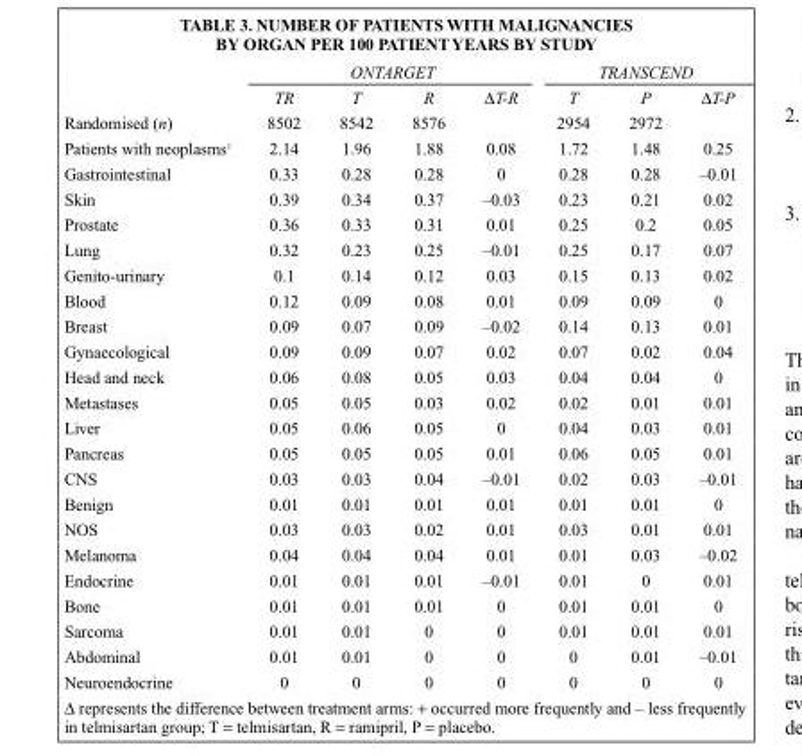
<table><thead><tr><td rowspan="2"></td><td colspan="4">ONTARGET</td><td colspan="3">TRANSCEND</td></tr><tr><td>TR</td><td>T</td><td>R</td><td>∆T-R</td><td>T</td><td>P</td><td>∆T-P</td></tr></thead><tbody><tr><td>Randomised (n)</td><td>8502</td><td>8542</td><td>8576</td><td></td><td>2954</td><td>2972</td><td></td></tr><tr><td>Patients with neoplasms<sup>1</sup></td><td>2.14</td><td>1.96</td><td>1.88</td><td>0.08</td><td>1.72</td><td>1.48</td><td>0.25</td></tr><tr><td>Gastrointestinal</td><td>0.33</td><td>0.28</td><td>0.28</td><td>0</td><td>0.28</td><td>0.28</td><td>–0.01</td></tr><tr><td>Skin</td><td>0.39</td><td>0.34</td><td>0.37</td><td>–0.03</td><td>0.23</td><td>0.21</td><td>0.02</td></tr><tr><td>Prostate</td><td>0.36</td><td>0.33</td><td>0.31</td><td>0.01</td><td>0.25</td><td>0.2</td><td>0.05</td></tr><tr><td>Lung</td><td>0.32</td><td>0.23</td><td>0.25</td><td>–0.01</td><td>0.25</td><td>0.17</td><td>0.07</td></tr><tr><td>Genito-urinary</td><td>0.1</td><td>0.14</td><td>0.12</td><td>0.03</td><td>0.15</td><td>0.13</td><td>0.02</td></tr><tr><td>Blood</td><td>0.12</td><td>0.09</td><td>0.08</td><td>0.01</td><td>0.09</td><td>0.09</td><td>0</td></tr><tr><td>Breast</td><td>0.09</td><td>0.07</td><td>0.09</td><td>–0.02</td><td>0.14</td><td>0.13</td><td>0.01</td></tr><tr><td>Gynaecological</td><td>0.09</td><td>0.09</td><td>0.07</td><td>0.02</td><td>0.07</td><td>0.02</td><td>0.04</td></tr><tr><td>Head and neck</td><td>0.06</td><td>0.08</td><td>0.05</td><td>0.03</td><td>0.04</td><td>0.04</td><td>0</td></tr><tr><td>Metastases</td><td>0.05</td><td>0.05</td><td>0.03</td><td>0.02</td><td>0.02</td><td>0.01</td><td>0.01</td></tr><tr><td>Liver</td><td>0.05</td><td>0.06</td><td>0.05</td><td>0</td><td>0.04</td><td>0.03</td><td>0.01</td></tr><tr><td>Pancreas</td><td>0.05</td><td>0.05</td><td>0.05</td><td>0.01</td><td>0.06</td><td>0.05</td><td>0.01</td></tr><tr><td>CNS</td><td>0.03</td><td>0.03</td><td>0.04</td><td>–0.01</td><td>0.02</td><td>0.03</td><td>–0.01</td></tr><tr><td>Benign</td><td>0.01</td><td>0.01</td><td>0.01</td><td>0.01</td><td>0.01</td><td>0.01</td><td>0</td></tr><tr><td>NOS</td><td>0.03</td><td>0.03</td><td>0.02</td><td>0.01</td><td>0.03</td><td>0.01</td><td>0.01</td></tr><tr><td>Melanoma</td><td>0.04</td><td>0.04</td><td>0.04</td><td>0.01</td><td>0.01</td><td>0.03</td><td>–0.02</td></tr><tr><td>Endocrine</td><td>0.01</td><td>0.01</td><td>0.01</td><td>–0.01</td><td>0.01</td><td>0</td><td>0.01</td></tr><tr><td>Bone</td><td>0.01</td><td>0.01</td><td>0.01</td><td>0</td><td>0.01</td><td>0.01</td><td>0</td></tr><tr><td>Sarcoma</td><td>0.01</td><td>0.01</td><td>0</td><td>0</td><td>0.01</td><td>0.01</td><td>0.01</td></tr><tr><td>Abdominal</td><td>0.01</td><td>0.01</td><td>0</td><td>0</td><td>0</td><td>0.01</td><td>–0.01</td></tr><tr><td>Neuroendocrine</td><td>0</td><td>0</td><td>0</td><td>0</td><td>0</td><td>0</td><td>0</td></tr></tbody></table>